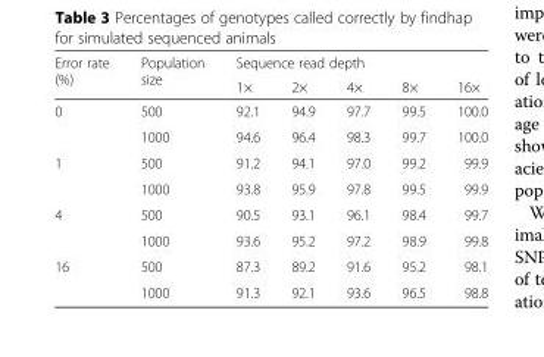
<table><thead><tr><td rowspan="2">Error rate (%)</td><td rowspan="2">Population size</td><td colspan="5">Sequence read depth</td></tr><tr><td>1×</td><td>2×</td><td>4×</td><td>8×</td><td>16×</td></tr></thead><tbody><tr><td rowspan="2">0</td><td>500</td><td>92.1</td><td>94.9</td><td>97.7</td><td>99.5</td><td>100.0</td></tr><tr><td>1000</td><td>94.6</td><td>96.4</td><td>98.3</td><td>99.7</td><td>100.0</td></tr><tr><td rowspan="2">1</td><td>500</td><td>91.2</td><td>94.1</td><td>97.0</td><td>99.2</td><td>99.9</td></tr><tr><td>1000</td><td>93.8</td><td>95.9</td><td>97.8</td><td>99.5</td><td>99.9</td></tr><tr><td rowspan="2">4</td><td>500</td><td>90.5</td><td>93.1</td><td>96.1</td><td>98.4</td><td>99.7</td></tr><tr><td>1000</td><td>93.6</td><td>95.2</td><td>97.2</td><td>98.9</td><td>99.8</td></tr><tr><td rowspan="2">16</td><td>500</td><td>87.3</td><td>89.2</td><td>91.6</td><td>95.2</td><td>98.1</td></tr><tr><td>1000</td><td>91.3</td><td>92.1</td><td>93.6</td><td>96.5</td><td>98.8</td></tr></tbody></table>